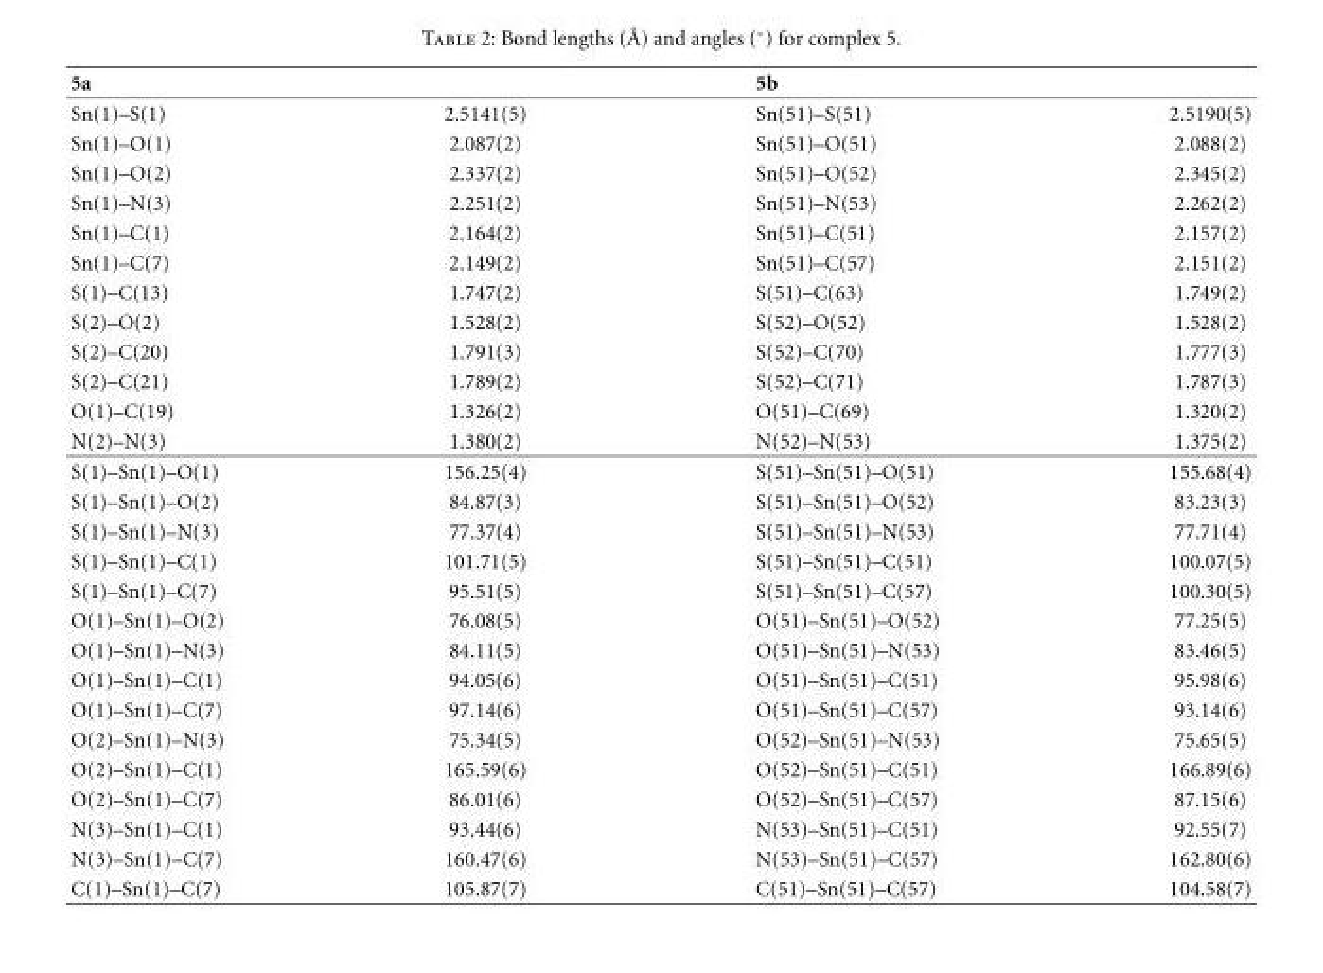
<table><thead><tr><td>5a</td><td></td><td>5b</td><td></td></tr></thead><tbody><tr><td>Sn(1)–S(1)</td><td>2.5141(5)</td><td>Sn(51)–S(51)</td><td>2.5190(5)</td></tr><tr><td>Sn(1)–O(1)</td><td>2.087(2)</td><td>Sn(51)–O(51)</td><td>2.088(2)</td></tr><tr><td>Sn(1)–O(2)</td><td>2.337(2)</td><td>Sn(51)–O(52)</td><td>2.345(2)</td></tr><tr><td>Sn(1)–N(3)</td><td>2.251(2)</td><td>Sn(51)–N(53)</td><td>2.262(2)</td></tr><tr><td>Sn(1)–C(1)</td><td>2.164(2)</td><td>Sn(51)–C(51)</td><td>2.157(2)</td></tr><tr><td>Sn(1)–C(7)</td><td>2.149(2)</td><td>Sn(51)–C(57)</td><td>2.151(2)</td></tr><tr><td>S(1)–C(13)</td><td>1.747(2)</td><td>S(51)–C(63)</td><td>1.749(2)</td></tr><tr><td>S(2)–O(2)</td><td>1.528(2)</td><td>S(52)–O(52)</td><td>1.528(2)</td></tr><tr><td>S(2)–C(20)</td><td>1.791(3)</td><td>S(52)–C(70)</td><td>1.777(3)</td></tr><tr><td>S(2)–C(21)</td><td>1.789(2)</td><td>S(52)–C(71)</td><td>1.787(3)</td></tr><tr><td>O(1)–C(19)</td><td>1.326(2)</td><td>O(51)–C(69)</td><td>1.320(2)</td></tr><tr><td>N(2)–N(3)</td><td>1.380(2)</td><td>N(52)–N(53)</td><td>1.375(2)</td></tr><tr><td>S(1)–Sn(1)–O(1)</td><td>156.25(4)</td><td>S(51)–Sn(51)–O(51)</td><td>155.68(4)</td></tr><tr><td>S(1)–Sn(1)–O(2)</td><td>84.87(3)</td><td>S(51)–Sn(51)–O(52)</td><td>83.23(3)</td></tr><tr><td>S(1)–Sn(1)–N(3)</td><td>77.37(4)</td><td>S(51)–Sn(51)–N(53)</td><td>77.71(4)</td></tr><tr><td>S(1)–Sn(1)–C(1)</td><td>101.71(5)</td><td>S(51)–Sn(51)–C(51)</td><td>100.07(5)</td></tr><tr><td>S(1)–Sn(1)–C(7)</td><td>95.51(5)</td><td>S(51)–Sn(51)–C(57)</td><td>100.30(5)</td></tr><tr><td>O(1)–Sn(1)–O(2)</td><td>76.08(5)</td><td>O(51)–Sn(51)–O(52)</td><td>77.25(5)</td></tr><tr><td>O(1)–Sn(1)–N(3)</td><td>84.11(5)</td><td>O(51)–Sn(51)–N(53)</td><td>83.46(5)</td></tr><tr><td>O(1)–Sn(1)–C(1)</td><td>94.05(6)</td><td>O(51)–Sn(51)–C(51)</td><td>95.98(6)</td></tr><tr><td>O(1)–Sn(1)–C(7)</td><td>97.14(6)</td><td>O(51)–Sn(51)–C(57)</td><td>93.14(6)</td></tr><tr><td>O(2)–Sn(1)–N(3)</td><td>75.34(5)</td><td>O(52)–Sn(51)–N(53)</td><td>75.65(5)</td></tr><tr><td>O(2)–Sn(1)–C(1)</td><td>165.59(6)</td><td>O(52)–Sn(51)–C(51)</td><td>166.89(6)</td></tr><tr><td>O(2)–Sn(1)–C(7)</td><td>86.01(6)</td><td>O(52)–Sn(51)–C(57)</td><td>87.15(6)</td></tr><tr><td>N(3)–Sn(1)–C(1)</td><td>93.44(6)</td><td>N(53)–Sn(51)–C(51)</td><td>92.55(7)</td></tr><tr><td>N(3)–Sn(1)–C(7)</td><td>160.47(6)</td><td>N(53)–Sn(51)–C(57)</td><td>162.80(6)</td></tr><tr><td>C(1)–Sn(1)–C(7)</td><td>105.87(7)</td><td>C(51)–Sn(51)–C(57)</td><td>104.58(7)</td></tr></tbody></table>